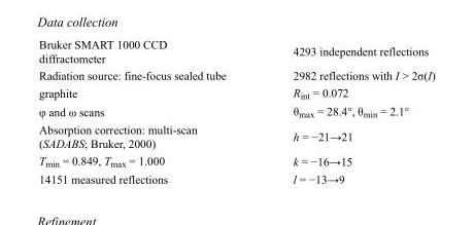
<table><tbody><tr><td>Bruker SMART 1000 CCD diffractometer</td><td>4293 independent reflections</td></tr><tr><td>Radiation source: fine-focus sealed tube</td><td>2982 reflections with I &gt; 2σ(I)</td></tr><tr><td>graphite</td><td>R<sub>int</sub> = 0.072</td></tr><tr><td>φ and ω scans</td><td>θ<sub>max</sub> = 28.4°, θ<sub>min</sub> = 2.1°</td></tr><tr><td>Absorption correction: multi-scan (SADABS; Bruker, 2000)</td><td>h = −21→21</td></tr><tr><td>T<sub>min</sub> = 0.849, T<sub>max</sub> = 1.000</td><td>k = −16→15</td></tr><tr><td>14151 measured reflections</td><td>l = −13→9</td></tr></tbody></table>